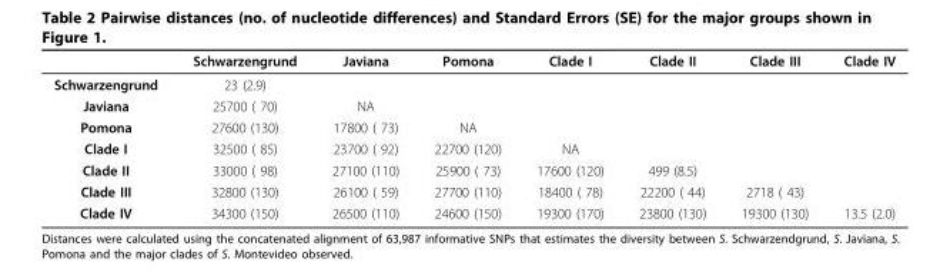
<table><thead><tr><td></td><td>Schwarzengrund</td><td>Javiana</td><td>Pomona</td><td>Clade I</td><td>Clade II</td><td>Clade III</td><td>Clade IV</td></tr></thead><tbody><tr><td>Schwarzengrund</td><td>23 (2.9)</td><td></td><td></td><td></td><td></td><td></td><td></td></tr><tr><td>Javiana</td><td>25700 ( 70)</td><td>NA</td><td></td><td></td><td></td><td></td><td></td></tr><tr><td>Pomona</td><td>27600 (130)</td><td>17800 ( 73)</td><td>NA</td><td></td><td></td><td></td><td></td></tr><tr><td>Clade I</td><td>32500 ( 85)</td><td>23700 ( 92)</td><td>22700 (120)</td><td>NA</td><td></td><td></td><td></td></tr><tr><td>Clade II</td><td>33000 ( 98)</td><td>27100 (110)</td><td>25900 ( 73)</td><td>17600 (120)</td><td>499 (8.5)</td><td></td><td></td></tr><tr><td>Clade III</td><td>32800 (130)</td><td>26100 ( 59)</td><td>27700 (110)</td><td>18400 ( 78)</td><td>22200 ( 44)</td><td>2718 ( 43)</td><td></td></tr><tr><td>Clade IV</td><td>34300 (150)</td><td>26500 (110)</td><td>24600 (150)</td><td>19300 (170)</td><td>23800 (130)</td><td>19300 (130)</td><td>13.5 (2.0)</td></tr></tbody></table>